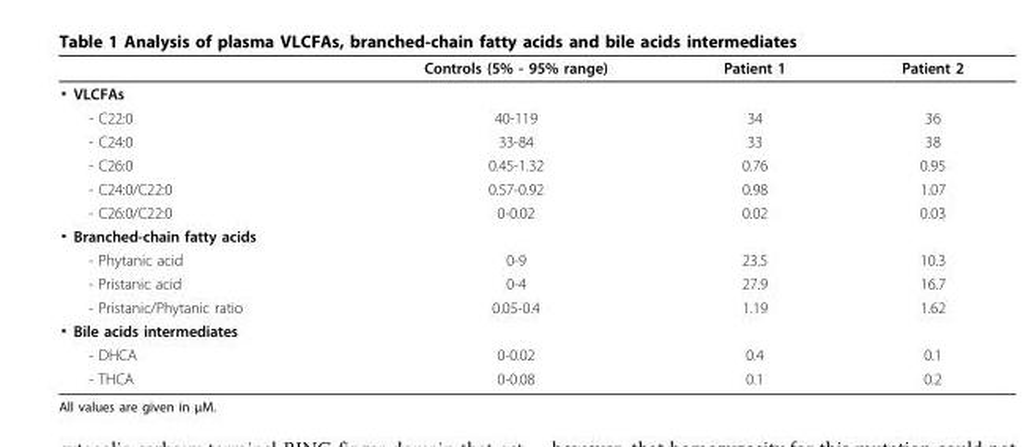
<table><thead><tr><td></td><td>Controls (5% - 95% range)</td><td>Patient 1</td><td>Patient 2</td></tr></thead><tbody><tr><td colspan="4">▪ VLCFAs</td></tr><tr><td>- C22:0</td><td>40-119</td><td>34</td><td>36</td></tr><tr><td>- C24:0</td><td>33-84</td><td>33</td><td>38</td></tr><tr><td>- C26:0</td><td>0.45-1.32</td><td>0.76</td><td>0.95</td></tr><tr><td>- C24:0/C22:0</td><td>0.57-0.92</td><td>0.98</td><td>1.07</td></tr><tr><td>- C26:0/C22:0</td><td>0-0.02</td><td>0.02</td><td>0.03</td></tr><tr><td colspan="4">▪ Branched-chain fatty acids</td></tr><tr><td>- Phytanic acid</td><td>0-9</td><td>23.5</td><td>10.3</td></tr><tr><td>- Pristanic acid</td><td>0-4</td><td>27.9</td><td>16.7</td></tr><tr><td>- Pristanic/Phytanic ratio</td><td>0.05-0.4</td><td>1.19</td><td>1.62</td></tr><tr><td colspan="4">▪ Bile acids intermediates</td></tr><tr><td>- DHCA</td><td>0-0.02</td><td>0.4</td><td>0.1</td></tr><tr><td>- THCA</td><td>0-0.08</td><td>0.1</td><td>0.2</td></tr></tbody></table>